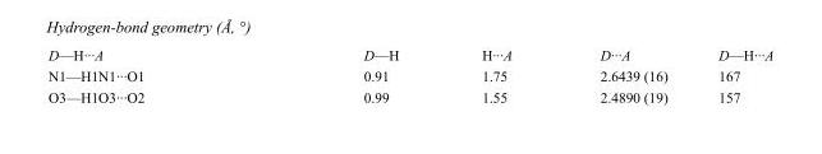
<table><tbody><tr><td>D—H···A</td><td>D—H</td><td>H···A</td><td>D···A</td><td>D—H···A</td></tr><tr><td>N1—H1N1···O1</td><td>0.91</td><td>1.75</td><td>2.6439 (16)</td><td>167</td></tr><tr><td>O3—H1O3···O2</td><td>0.99</td><td>1.55</td><td>2.4890 (19)</td><td>157</td></tr></tbody></table>